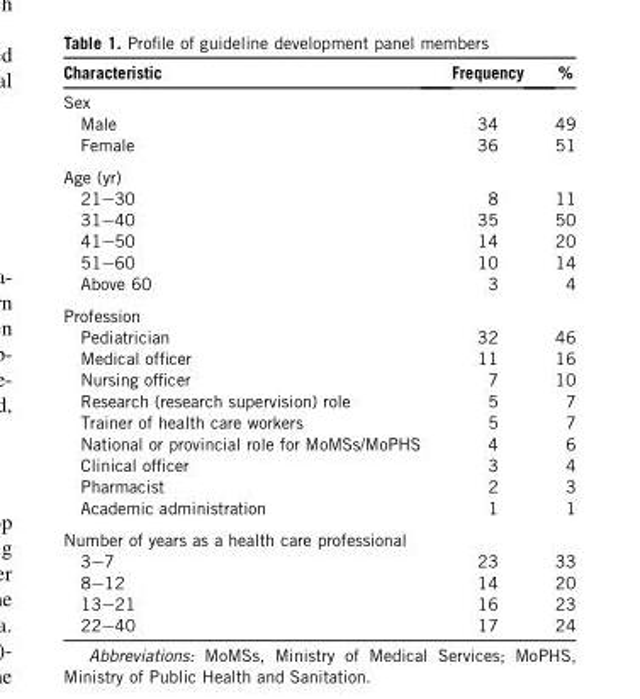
<table><thead><tr><td>Characteristic</td><td>Frequency</td><td>%</td></tr></thead><tbody><tr><td colspan="3">Sex</td></tr><tr><td>Male</td><td>34</td><td>49</td></tr><tr><td>Female</td><td>36</td><td>51</td></tr><tr><td colspan="3">Age (yr)</td></tr><tr><td>21–30</td><td>8</td><td>11</td></tr><tr><td>31–40</td><td>35</td><td>50</td></tr><tr><td>41–50</td><td>14</td><td>20</td></tr><tr><td>51–60</td><td>10</td><td>14</td></tr><tr><td>Above 60</td><td>3</td><td>4</td></tr><tr><td colspan="3">Profession</td></tr><tr><td>Pediatrician</td><td>32</td><td>46</td></tr><tr><td>Medical officer</td><td>11</td><td>16</td></tr><tr><td>Nursing officer</td><td>7</td><td>10</td></tr><tr><td>Research (research supervision) role</td><td>5</td><td>7</td></tr><tr><td>Trainer of health care workers</td><td>5</td><td>7</td></tr><tr><td>National or provincial role for MoMSs/MoPHS</td><td>4</td><td>6</td></tr><tr><td>Clinical officer</td><td>3</td><td>4</td></tr><tr><td>Pharmacist</td><td>2</td><td>3</td></tr><tr><td>Academic administration</td><td>1</td><td>1</td></tr><tr><td colspan="3">Number of years as a health care professional</td></tr><tr><td>3–7</td><td>23</td><td>33</td></tr><tr><td>8–12</td><td>14</td><td>20</td></tr><tr><td>13–21</td><td>16</td><td>23</td></tr><tr><td>22–40</td><td>17</td><td>24</td></tr></tbody></table>